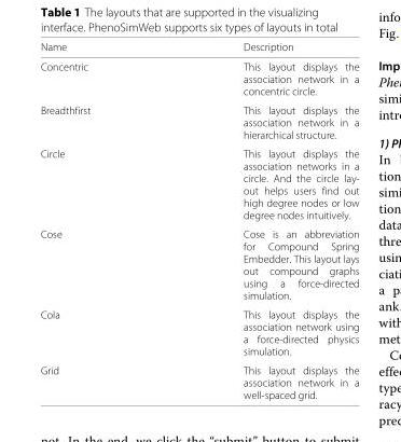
<table><thead><tr><td>Name</td><td>Description</td></tr></thead><tbody><tr><td>Concentric</td><td>This layout displays the association network in a concentric circle.</td></tr><tr><td>Breadthfirst</td><td>This layout displays the association network in a hierarchical structure.</td></tr><tr><td>Circle</td><td>This layout displays the association networks in a circle. And the circle lay- out helps users find out high degree nodes or low degree nodes intuitively.</td></tr><tr><td>Cose</td><td>Cose is an abbreviation for Compound Spring Embedder. This layout lays out compound graphs using a force-directed simulation.</td></tr><tr><td>Cola</td><td>This layout displays the association network using a force-directed physics simulation.</td></tr><tr><td>Grid</td><td>This layout displays the association network in a well-spaced grid.</td></tr></tbody></table>